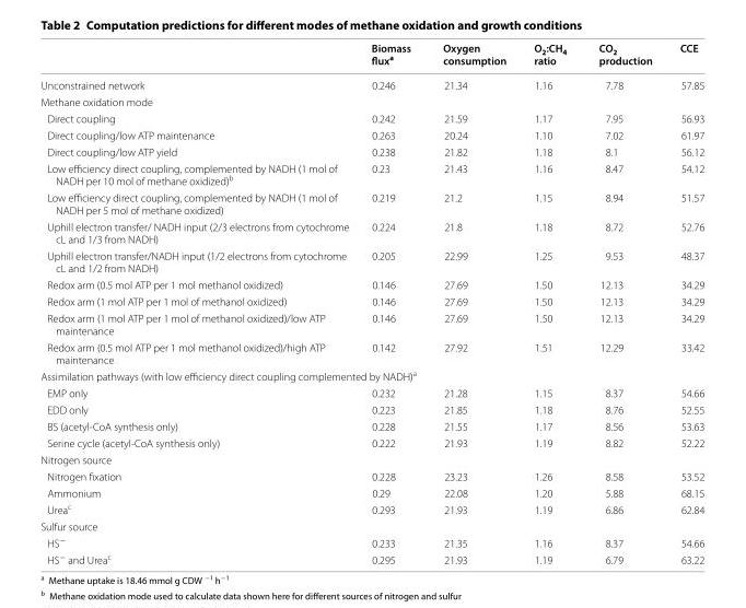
<table><thead><tr><td></td><td>Biomass flux<sup>a</sup></td><td>Oxygen consumption</td><td>O<sub>2</sub>:CH<sub>4</sub> ratio</td><td>CO<sub>2</sub> production</td><td>CCE</td></tr></thead><tbody><tr><td>Unconstrained network</td><td>0.246</td><td>21.34</td><td>1.16</td><td>7.78</td><td>57.85</td></tr><tr><td colspan="6">Methane oxidation mode</td></tr><tr><td>Direct coupling</td><td>0.242</td><td>21.59</td><td>1.17</td><td>7.95</td><td>56.93</td></tr><tr><td>Direct coupling/low ATP maintenance</td><td>0.263</td><td>20.24</td><td>1.10</td><td>7.02</td><td>61.97</td></tr><tr><td>Direct coupling/low ATP yield</td><td>0.238</td><td>21.82</td><td>1.18</td><td>8.1</td><td>56.12</td></tr><tr><td>Low efficiency direct coupling, complemented by NADH (1 mol of NADH per 10 mol of methane oxidized)<sup>b</sup></td><td>0.23</td><td>21.43</td><td>1.16</td><td>8.47</td><td>54.12</td></tr><tr><td>Low efficiency direct coupling, complemented by NADH (1 mol of NADH per 5 mol of methane oxidized)</td><td>0.219</td><td>21.2</td><td>1.15</td><td>8.94</td><td>51.57</td></tr><tr><td>Uphill electron transfer/ NADH input (2/3 electrons from cytochrome cL and 1/3 from NADH)</td><td>0.224</td><td>21.8</td><td>1.18</td><td>8.72</td><td>52.76</td></tr><tr><td>Uphill electron transfer/NADH input (1/2 electrons from cytochrome cL and 1/2 from NADH)</td><td>0.205</td><td>22.99</td><td>1.25</td><td>9.53</td><td>48.37</td></tr><tr><td>Redox arm (0.5 mol ATP per 1 mol methanol oxidized)</td><td>0.146</td><td>27.69</td><td>1.50</td><td>12.13</td><td>34.29</td></tr><tr><td>Redox arm (1 mol ATP per 1 mol of methanol oxidized)</td><td>0.146</td><td>27.69</td><td>1.50</td><td>12.13</td><td>34.29</td></tr><tr><td>Redox arm (1 mol ATP per 1 mol of methanol oxidized)/low ATP maintenance</td><td>0.146</td><td>27.69</td><td>1.50</td><td>12.13</td><td>34.29</td></tr><tr><td>Redox arm (0.5 mol ATP per 1 mol methanol oxidized)/high ATP maintenance</td><td>0.142</td><td>27.92</td><td>1.51</td><td>12.29</td><td>33.42</td></tr><tr><td colspan="6">Assimilation pathways (with low efficiency direct coupling complemented by NADH)<sup>a</sup></td></tr><tr><td>EMP only</td><td>0.232</td><td>21.28</td><td>1.15</td><td>8.37</td><td>54.66</td></tr><tr><td>EDD only</td><td>0.223</td><td>21.85</td><td>1.18</td><td>8.76</td><td>52.55</td></tr><tr><td>BS (acetyl-CoA synthesis only)</td><td>0.228</td><td>21.55</td><td>1.17</td><td>8.56</td><td>53.63</td></tr><tr><td>Serine cycle (acetyl-CoA synthesis only)</td><td>0.222</td><td>21.93</td><td>1.19</td><td>8.82</td><td>52.22</td></tr><tr><td colspan="6">Nitrogen source</td></tr><tr><td>Nitrogen fixation</td><td>0.228</td><td>23.23</td><td>1.26</td><td>8.58</td><td>53.52</td></tr><tr><td>Ammonium</td><td>0.29</td><td>22.08</td><td>1.20</td><td>5.88</td><td>68.15</td></tr><tr><td>Urea<sup>c</sup></td><td>0.293</td><td>21.93</td><td>1.19</td><td>6.86</td><td>62.84</td></tr><tr><td colspan="6">Sulfur source</td></tr><tr><td>HS<sup>−</sup></td><td>0.233</td><td>21.35</td><td>1.16</td><td>8.37</td><td>54.66</td></tr><tr><td>HS<sup>−</sup> and Urea<sup>c</sup></td><td>0.295</td><td>21.93</td><td>1.19</td><td>6.79</td><td>63.22</td></tr></tbody></table>